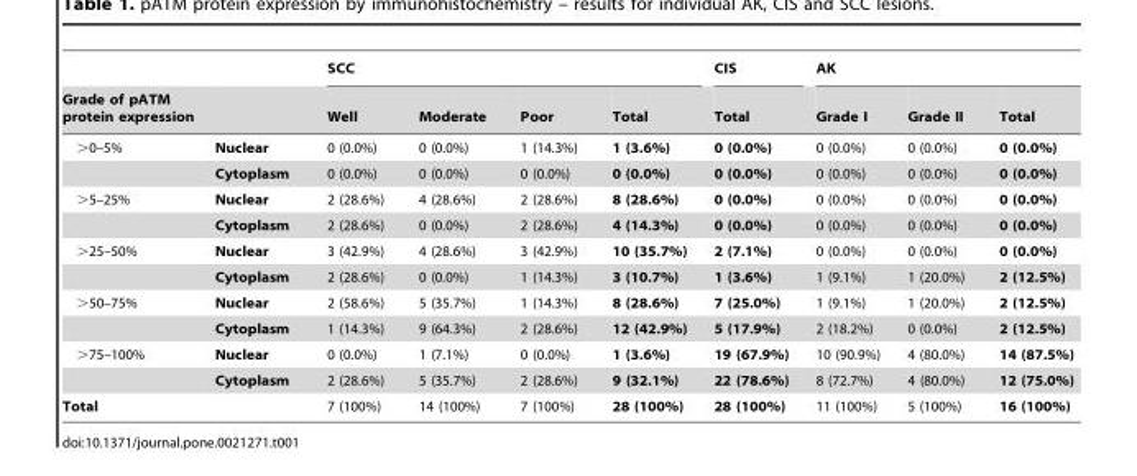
<table><thead><tr><td rowspan="2">Grade of pATM protein expression</td><td rowspan="2"></td><td colspan="4">SCC</td><td rowspan="2">CIS Total</td><td colspan="3">AK</td></tr><tr><td>Well</td><td>Moderate</td><td>Poor</td><td>Total</td><td>Grade I</td><td>Grade II</td><td>Total</td></tr></thead><tbody><tr><td rowspan="2">&gt;0–5%</td><td>Nuclear</td><td>0 (0.0%)</td><td>0 (0.0%)</td><td>1 (14.3%)</td><td>1 (3.6%)</td><td>0 (0.0%)</td><td>0 (0.0%)</td><td>0 (0.0%)</td><td>0 (0.0%)</td></tr><tr><td>Cytoplasm</td><td>0 (0.0%)</td><td>0 (0.0%)</td><td>0 (0.0%)</td><td>0 (0.0%)</td><td>0 (0.0%)</td><td>0 (0.0%)</td><td>0 (0.0%)</td><td>0 (0.0%)</td></tr><tr><td rowspan="2">&gt;5–25%</td><td>Nuclear</td><td>2 (28.6%)</td><td>4 (28.6%)</td><td>2 (28.6%)</td><td>8 (28.6%)</td><td>0 (0.0%)</td><td>0 (0.0%)</td><td>0 (0.0%)</td><td>0 (0.0%)</td></tr><tr><td>Cytoplasm</td><td>2 (28.6%)</td><td>0 (0.0%)</td><td>2 (28.6%)</td><td>4 (14.3%)</td><td>0 (0.0%)</td><td>0 (0.0%)</td><td>0 (0.0%)</td><td>0 (0.0%)</td></tr><tr><td rowspan="2">&gt;25–50%</td><td>Nuclear</td><td>3 (42.9%)</td><td>4 (28.6%)</td><td>3 (42.9%)</td><td>10 (35.7%)</td><td>2 (7.1%)</td><td>0 (0.0%)</td><td>0 (0.0%)</td><td>0 (0.0%)</td></tr><tr><td>Cytoplasm</td><td>2 (28.6%)</td><td>0 (0.0%)</td><td>1 (14.3%)</td><td>3 (10.7%)</td><td>1 (3.6%)</td><td>1 (9.1%)</td><td>1 (20.0%)</td><td>2 (12.5%)</td></tr><tr><td rowspan="2">&gt;50–75%</td><td>Nuclear</td><td>2 (58.6%)</td><td>5 (35.7%)</td><td>1 (14.3%)</td><td>8 (28.6%)</td><td>7 (25.0%)</td><td>1 (9.1%)</td><td>1 (20.0%)</td><td>2 (12.5%)</td></tr><tr><td>Cytoplasm</td><td>1 (14.3%)</td><td>9 (64.3%)</td><td>2 (28.6%)</td><td>12 (42.9%)</td><td>5 (17.9%)</td><td>2 (18.2%)</td><td>0 (0.0%)</td><td>2 (12.5%)</td></tr><tr><td rowspan="2">&gt;75–100%</td><td>Nuclear</td><td>0 (0.0%)</td><td>1 (7.1%)</td><td>0 (0.0%)</td><td>1 (3.6%)</td><td>19 (67.9%)</td><td>10 (90.9%)</td><td>4 (80.0%)</td><td>14 (87.5%)</td></tr><tr><td>Cytoplasm</td><td>2 (28.6%)</td><td>5 (35.7%)</td><td>2 (28.6%)</td><td>9 (32.1%)</td><td>22 (78.6%)</td><td>8 (72.7%)</td><td>4 (80.0%)</td><td>12 (75.0%)</td></tr><tr><td>Total</td><td></td><td>7 (100%)</td><td>14 (100%)</td><td>7 (100%)</td><td>28 (100%)</td><td>28 (100%)</td><td>11 (100%)</td><td>5 (100%)</td><td>16 (100%)</td></tr></tbody></table>